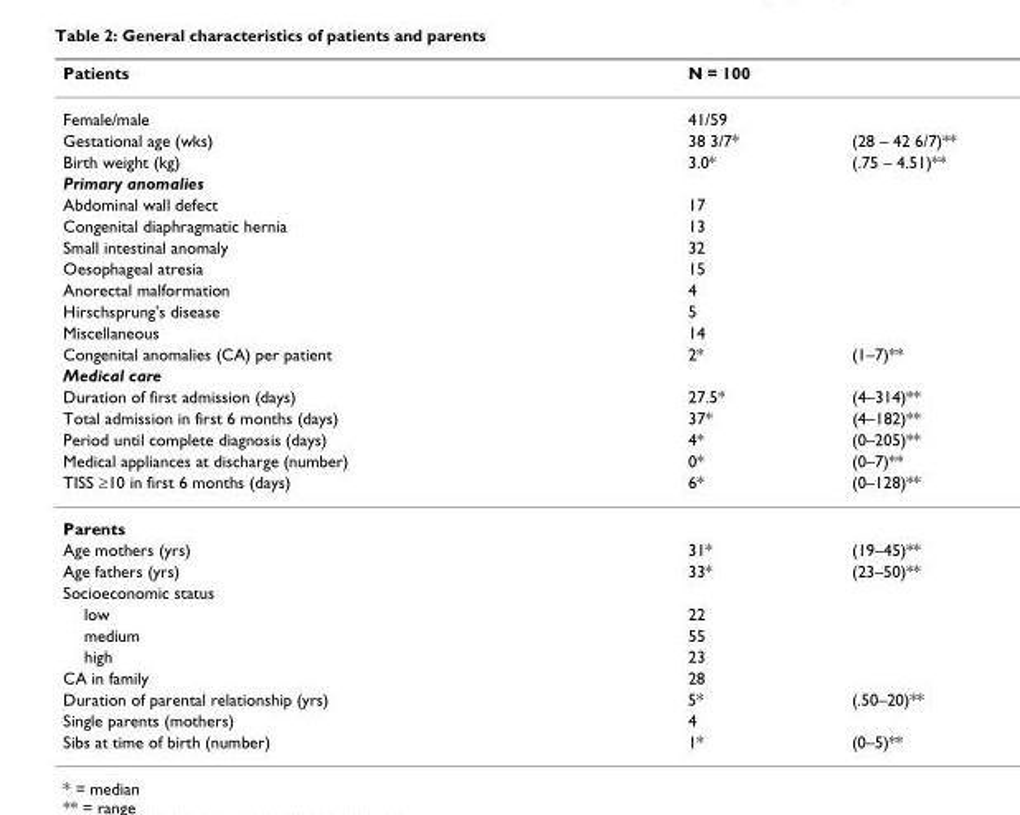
<table><thead><tr><td>Patients</td><td>N = 100</td><td></td></tr></thead><tbody><tr><td>Female/male</td><td>41/59</td><td></td></tr><tr><td>Gestational age (wks)</td><td>38 3/7*</td><td>(28 – 42 6/7)**</td></tr><tr><td>Birth weight (kg)</td><td>3.0*</td><td>(.75 – 4.51)**</td></tr><tr><td colspan="3">Primary anomalies</td></tr><tr><td>Abdominal wall defect</td><td>17</td><td></td></tr><tr><td>Congenital diaphragmatic hernia</td><td>13</td><td></td></tr><tr><td>Small intestinal anomaly</td><td>32</td><td></td></tr><tr><td>Oesophageal atresia</td><td>15</td><td></td></tr><tr><td>Anorectal malformation</td><td>4</td><td></td></tr><tr><td>Hirschsprung&#x27;s disease</td><td>5</td><td></td></tr><tr><td>Miscellaneous</td><td>14</td><td></td></tr><tr><td>Congenital anomalies (CA) per patient</td><td>2*</td><td>(1–7)**</td></tr><tr><td colspan="3">Medical care</td></tr><tr><td>Duration of first admission (days)</td><td>27.5*</td><td>(4–314)**</td></tr><tr><td>Total admission in first 6 months (days)</td><td>37*</td><td>(4–182)**</td></tr><tr><td>Period until complete diagnosis (days)</td><td>4*</td><td>(0–205)**</td></tr><tr><td>Medical appliances at discharge (number)</td><td>0*</td><td>(0–7)**</td></tr><tr><td>TISS ≥10 in first 6 months (days)</td><td>6*</td><td>(0–128)**</td></tr><tr><td colspan="3">Parents</td></tr><tr><td>Age mothers (yrs)</td><td>31*</td><td>(19–45)**</td></tr><tr><td>Age fathers (yrs)</td><td>33*</td><td>(23–50)**</td></tr><tr><td colspan="3">Socioeconomic status</td></tr><tr><td>low</td><td>22</td><td></td></tr><tr><td>medium</td><td>55</td><td></td></tr><tr><td>high</td><td>23</td><td></td></tr><tr><td>CA in family</td><td>28</td><td></td></tr><tr><td>Duration of parental relationship (yrs)</td><td>5*</td><td>(.50–20)**</td></tr><tr><td>Single parents (mothers)</td><td>4</td><td></td></tr><tr><td>Sibs at time of birth (number)</td><td>1*</td><td>(0–5)**</td></tr></tbody></table>